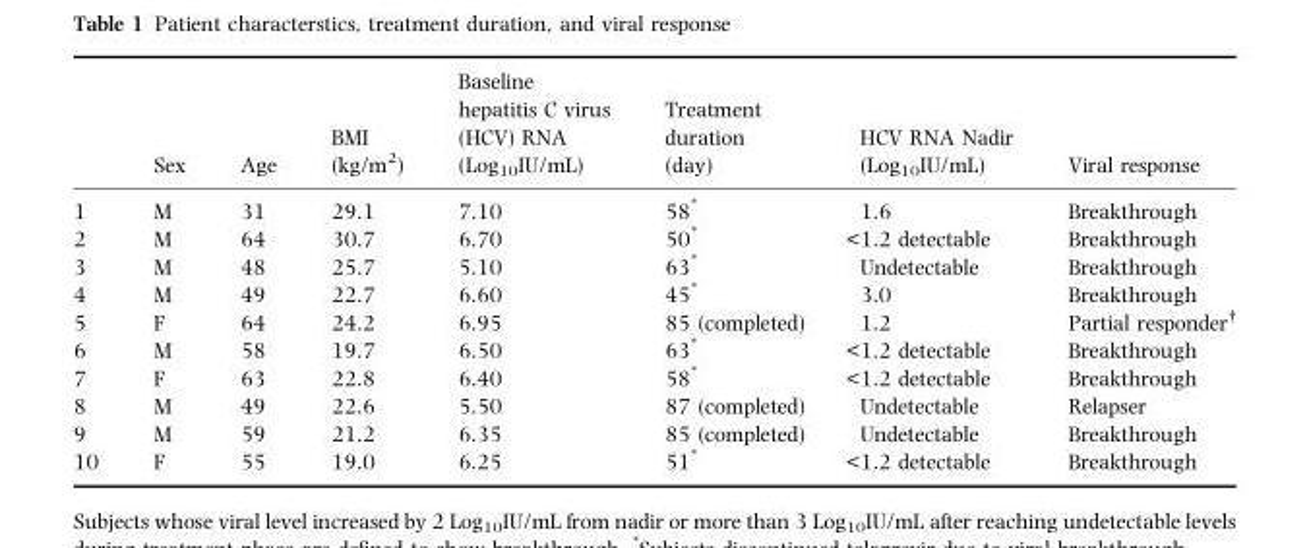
<table><thead><tr><td></td><td>Sex</td><td>Age</td><td>BMI (kg/m<sup>2</sup>)</td><td>Baseline hepatitis C virus (HCV) RNA (Log<sub>10</sub>IU/mL)</td><td>Treatment duration (day)</td><td>HCV RNA Nadir (Log<sub>10</sub>IU/mL)</td><td>Viral response</td></tr></thead><tbody><tr><td>1</td><td>M</td><td>31</td><td>29.1</td><td>7.10</td><td>58*</td><td>1.6</td><td>Breakthrough</td></tr><tr><td>2</td><td>M</td><td>64</td><td>30.7</td><td>6.70</td><td>50*</td><td>&lt;1.2 detectable</td><td>Breakthrough</td></tr><tr><td>3</td><td>M</td><td>48</td><td>25.7</td><td>5.10</td><td>63*</td><td>Undetectable</td><td>Breakthrough</td></tr><tr><td>4</td><td>M</td><td>49</td><td>22.7</td><td>6.60</td><td>45*</td><td>3.0</td><td>Breakthrough</td></tr><tr><td>5</td><td>F</td><td>64</td><td>24.2</td><td>6.95</td><td>85 (completed)</td><td>1.2</td><td>Partial responder†</td></tr><tr><td>6</td><td>M</td><td>58</td><td>19.7</td><td>6.50</td><td>63*</td><td>&lt;1.2 detectable</td><td>Breakthrough</td></tr><tr><td>7</td><td>F</td><td>63</td><td>22.8</td><td>6.40</td><td>58*</td><td>&lt;1.2 detectable</td><td>Breakthrough</td></tr><tr><td>8</td><td>M</td><td>49</td><td>22.6</td><td>5.50</td><td>87 (completed)</td><td>Undetectable</td><td>Relapser</td></tr><tr><td>9</td><td>M</td><td>59</td><td>21.2</td><td>6.35</td><td>85 (completed)</td><td>Undetectable</td><td>Breakthrough</td></tr><tr><td>10</td><td>F</td><td>55</td><td>19.0</td><td>6.25</td><td>51*</td><td>&lt;1.2 detectable</td><td>Breakthrough</td></tr></tbody></table>